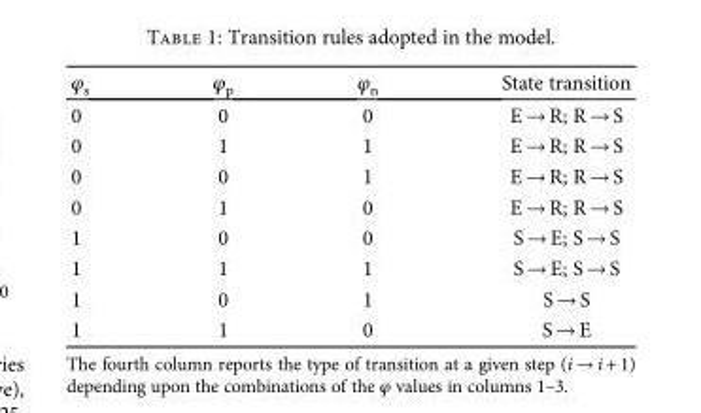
<table><thead><tr><td>φ<sub>s</sub></td><td>φ<sub>p</sub></td><td>φ<sub>n</sub></td><td>State transition</td></tr></thead><tbody><tr><td>0</td><td>0</td><td>0</td><td>E → R; R → S</td></tr><tr><td>0</td><td>1</td><td>1</td><td>E → R; R → S</td></tr><tr><td>0</td><td>0</td><td>1</td><td>E → R; R → S</td></tr><tr><td>0</td><td>1</td><td>0</td><td>E → R; R → S</td></tr><tr><td>1</td><td>0</td><td>0</td><td>S → E; S → S</td></tr><tr><td>1</td><td>1</td><td>1</td><td>S → E; S → S</td></tr><tr><td>1</td><td>0</td><td>1</td><td>S → S</td></tr><tr><td>1</td><td>1</td><td>0</td><td>S → E</td></tr></tbody></table>